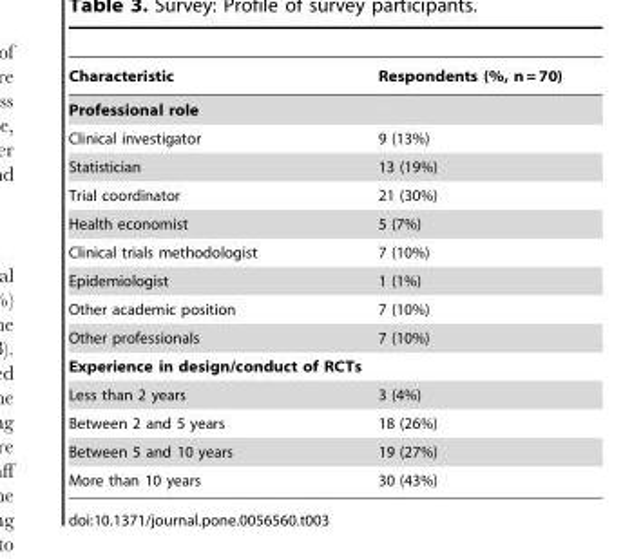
<table><thead><tr><td>Characteristic</td><td>Respondents (%, n = 70)</td></tr></thead><tbody><tr><td colspan="2">Professional role</td></tr><tr><td>Clinical investigator</td><td>9 (13%)</td></tr><tr><td>Statistician</td><td>13 (19%)</td></tr><tr><td>Trial coordinator</td><td>21 (30%)</td></tr><tr><td>Health economist</td><td>5 (7%)</td></tr><tr><td>Clinical trials methodologist</td><td>7 (10%)</td></tr><tr><td>Epidemiologist</td><td>1 (1%)</td></tr><tr><td>Other academic position</td><td>7 (10%)</td></tr><tr><td>Other professionals</td><td>7 (10%)</td></tr><tr><td colspan="2">Experience in design/conduct of RCTs</td></tr><tr><td>Less than 2 years</td><td>3 (4%)</td></tr><tr><td>Between 2 and 5 years</td><td>18 (26%)</td></tr><tr><td>Between 5 and 10 years</td><td>19 (27%)</td></tr><tr><td>More than 10 years</td><td>30 (43%)</td></tr></tbody></table>